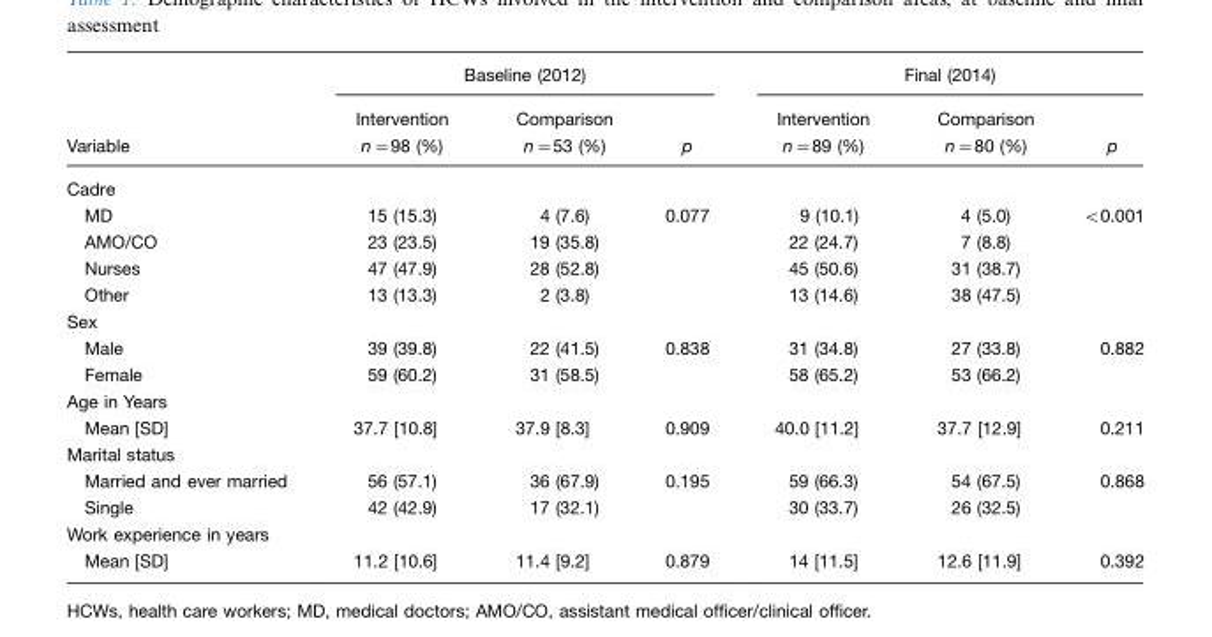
<table><thead><tr><td rowspan="2">Variable</td><td colspan="3">Baseline (2012)</td><td colspan="3">Final (2014)</td></tr><tr><td>Intervention n=98 (%)</td><td>Comparison n=53 (%)</td><td>p</td><td>Intervention n=89 (%)</td><td>Comparison n=80 (%)</td><td>p</td></tr></thead><tbody><tr><td colspan="7">Cadre</td></tr><tr><td>MD</td><td>15 (15.3)</td><td>4 (7.6)</td><td>0.077</td><td>9 (10.1)</td><td>4 (5.0)</td><td>&lt;0.001</td></tr><tr><td>AMO/CO</td><td>23 (23.5)</td><td>19 (35.8)</td><td></td><td>22 (24.7)</td><td>7 (8.8)</td><td></td></tr><tr><td>Nurses</td><td>47 (47.9)</td><td>28 (52.8)</td><td></td><td>45 (50.6)</td><td>31 (38.7)</td><td></td></tr><tr><td>Other</td><td>13 (13.3)</td><td>2 (3.8)</td><td></td><td>13 (14.6)</td><td>38 (47.5)</td><td></td></tr><tr><td colspan="7">Sex</td></tr><tr><td>Male</td><td>39 (39.8)</td><td>22 (41.5)</td><td>0.838</td><td>31 (34.8)</td><td>27 (33.8)</td><td>0.882</td></tr><tr><td>Female</td><td>59 (60.2)</td><td>31 (58.5)</td><td></td><td>58 (65.2)</td><td>53 (66.2)</td><td></td></tr><tr><td colspan="7">Age in Years</td></tr><tr><td>Mean [SD]</td><td>37.7 [10.8]</td><td>37.9 [8.3]</td><td>0.909</td><td>40.0 [11.2]</td><td>37.7 [12.9]</td><td>0.211</td></tr><tr><td colspan="7">Marital status</td></tr><tr><td>Married and ever married</td><td>56 (57.1)</td><td>36 (67.9)</td><td>0.195</td><td>59 (66.3)</td><td>54 (67.5)</td><td>0.868</td></tr><tr><td>Single</td><td>42 (42.9)</td><td>17 (32.1)</td><td></td><td>30 (33.7)</td><td>26 (32.5)</td><td></td></tr><tr><td colspan="7">Work experience in years</td></tr><tr><td>Mean [SD]</td><td>11.2 [10.6]</td><td>11.4 [9.2]</td><td>0.879</td><td>14 [11.5]</td><td>12.6 [11.9]</td><td>0.392</td></tr></tbody></table>